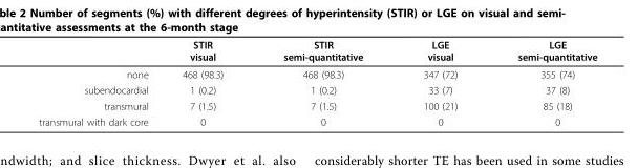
<table><thead><tr><td></td><td>STIR visual</td><td>STIR semi-quantitative</td><td>LGE visual</td><td>LGE semi-quantitative</td></tr></thead><tbody><tr><td>none</td><td>468 (98.3)</td><td>468 (98.3)</td><td>347 (72)</td><td>355 (74)</td></tr><tr><td>subendocardial</td><td>1 (0.2)</td><td>1 (0.2)</td><td>33 (7)</td><td>37 (8)</td></tr><tr><td>transmural</td><td>7 (1.5)</td><td>7 (1.5)</td><td>100 (21)</td><td>85 (18)</td></tr><tr><td>transmural with dark core</td><td>0</td><td>0</td><td>0</td><td>0</td></tr></tbody></table>